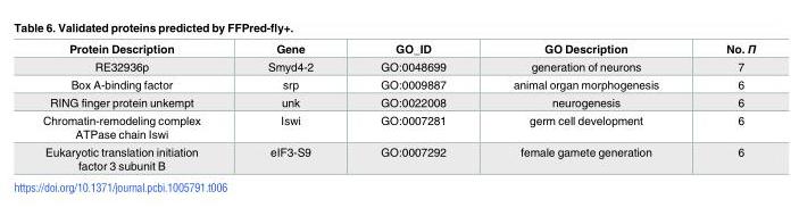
<table><thead><tr><td>Protein Description</td><td>Gene</td><td>GO_ID</td><td>GO Description</td><td>No. Π</td></tr></thead><tbody><tr><td>RE32936p</td><td>Smyd4-2</td><td>GO:0048699</td><td>generation of neurons</td><td>7</td></tr><tr><td>Box A-binding factor</td><td>srp</td><td>GO:0009887</td><td>animal organ morphogenesis</td><td>6</td></tr><tr><td>RING finger protein unkempt</td><td>unk</td><td>GO:0022008</td><td>neurogenesis</td><td>6</td></tr><tr><td>Chromatin-remodeling complex ATPase chain Iswi</td><td>Iswi</td><td>GO:0007281</td><td>germ cell development</td><td>6</td></tr><tr><td>Eukaryotic translation initiation factor 3 subunit B</td><td>eIF3-S9</td><td>GO:0007292</td><td>female gamete generation</td><td>6</td></tr></tbody></table>